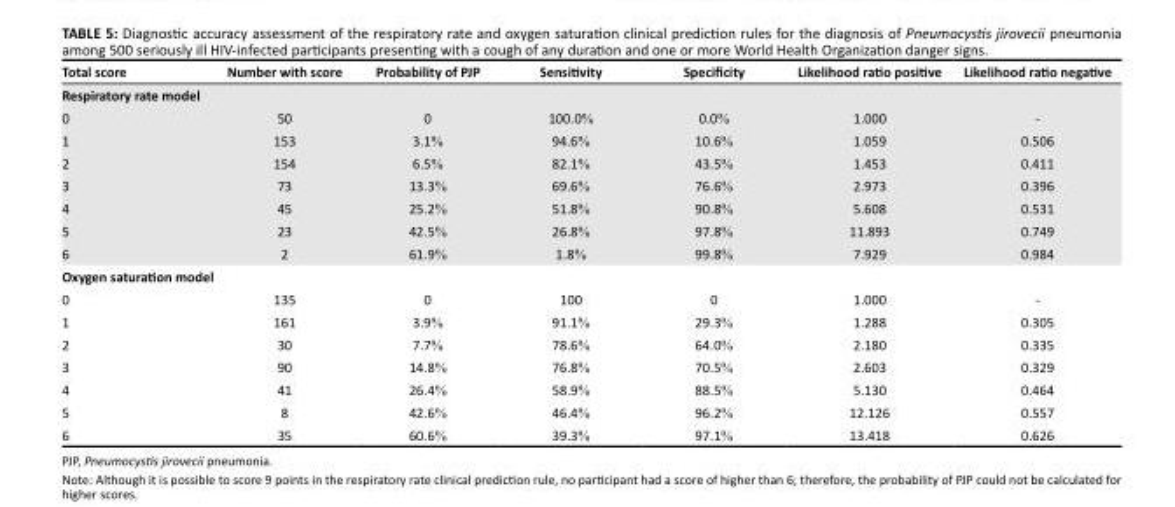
<table><thead><tr><td>Total score</td><td>Number with score</td><td>Probability of PJP</td><td>Sensitivity</td><td>Specificity</td><td>Likelihood ratio positive</td><td>Likelihood ratio negative</td></tr></thead><tbody><tr><td colspan="7">Respiratory rate model</td></tr><tr><td>0</td><td>50</td><td>0</td><td>100.0%</td><td>0.0%</td><td>1.000</td><td>-</td></tr><tr><td>1</td><td>153</td><td>3.1%</td><td>94.6%</td><td>10.6%</td><td>1.059</td><td>0.506</td></tr><tr><td>2</td><td>154</td><td>6.5%</td><td>82.1%</td><td>43.5%</td><td>1.453</td><td>0.411</td></tr><tr><td>3</td><td>73</td><td>13.3%</td><td>69.6%</td><td>76.6%</td><td>2.973</td><td>0.396</td></tr><tr><td>4</td><td>45</td><td>25.2%</td><td>51.8%</td><td>90.8%</td><td>5.608</td><td>0.531</td></tr><tr><td>5</td><td>23</td><td>42.5%</td><td>26.8%</td><td>97.8%</td><td>11.893</td><td>0.749</td></tr><tr><td>6</td><td>2</td><td>61.9%</td><td>1.8%</td><td>99.8%</td><td>7.929</td><td>0.984</td></tr><tr><td colspan="7">Oxygen saturation model</td></tr><tr><td>0</td><td>135</td><td>0</td><td>100</td><td>0</td><td>1.000</td><td>-</td></tr><tr><td>1</td><td>161</td><td>3.9%</td><td>91.1%</td><td>29.3%</td><td>1.288</td><td>0.305</td></tr><tr><td>2</td><td>30</td><td>7.7%</td><td>78.6%</td><td>64.0%</td><td>2.180</td><td>0.335</td></tr><tr><td>3</td><td>90</td><td>14.8%</td><td>76.8%</td><td>70.5%</td><td>2.603</td><td>0.329</td></tr><tr><td>4</td><td>41</td><td>26.4%</td><td>58.9%</td><td>88.5%</td><td>5.130</td><td>0.464</td></tr><tr><td>5</td><td>8</td><td>42.6%</td><td>46.4%</td><td>96.2%</td><td>12.126</td><td>0.557</td></tr><tr><td>6</td><td>35</td><td>60.6%</td><td>39.3%</td><td>97.1%</td><td>13.418</td><td>0.626</td></tr></tbody></table>